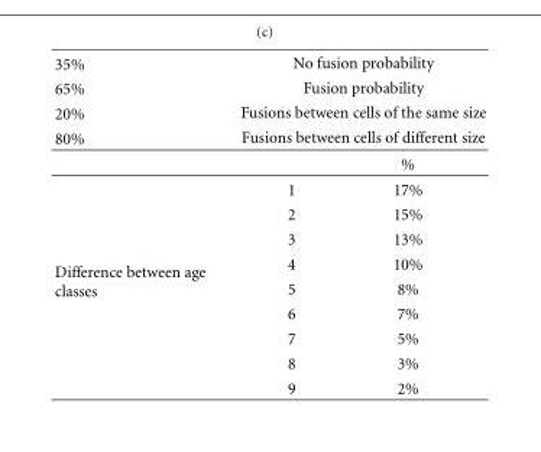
<table><tbody><tr><td>35%</td><td colspan="2">No fusion probability</td></tr><tr><td>65%</td><td colspan="2">Fusion probability</td></tr><tr><td>20%</td><td colspan="2">Fusions between cells of the same size</td></tr><tr><td rowspan="2">80%</td><td colspan="2">Fusions between cells of different size</td></tr><tr><td></td><td>%</td></tr><tr><td rowspan="9">Difference between age classes</td><td>1</td><td>17%</td></tr><tr><td>2</td><td>15%</td></tr><tr><td>3</td><td>13%</td></tr><tr><td>4</td><td>10%</td></tr><tr><td>5</td><td>8%</td></tr><tr><td>6</td><td>7%</td></tr><tr><td>7</td><td>5%</td></tr><tr><td>8</td><td>3%</td></tr><tr><td>9</td><td>2%</td></tr></tbody></table>